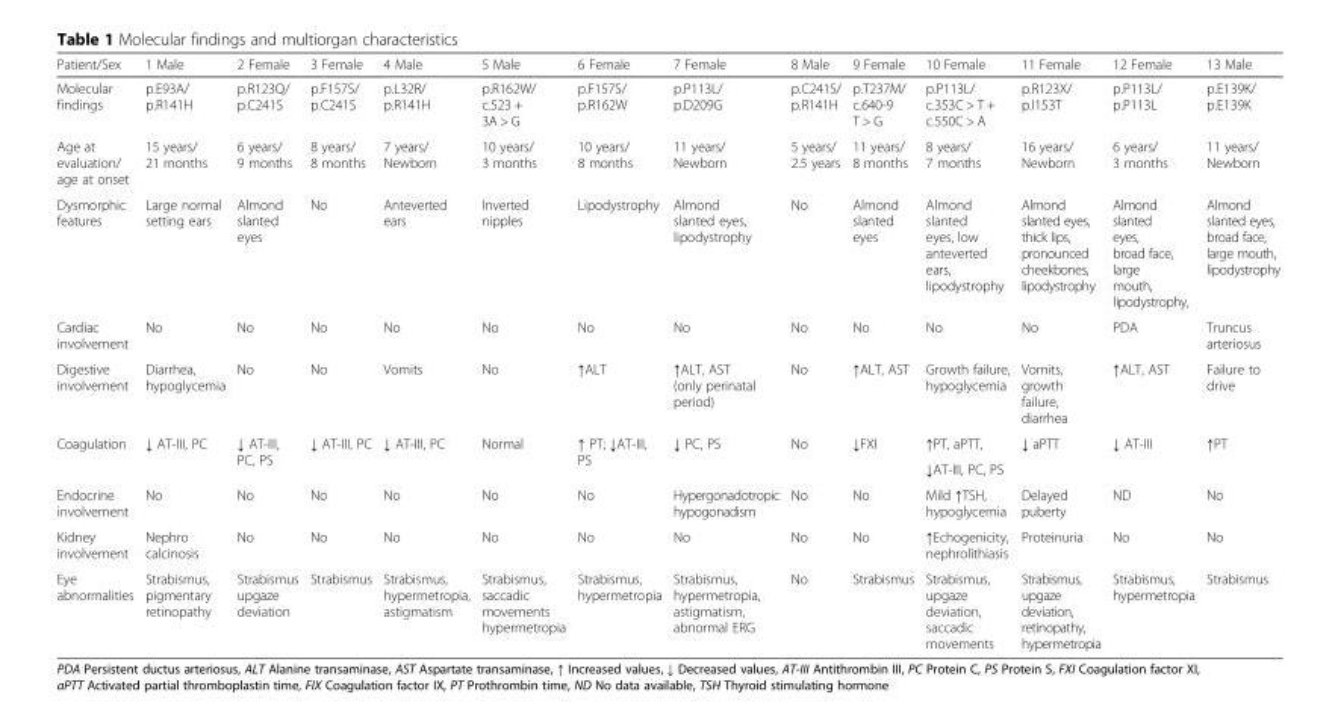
<table><thead><tr><td>Patient/Sex</td><td>1 Male</td><td>2 Female</td><td>3 Female</td><td>4 Male</td><td>5 Male</td><td>6 Female</td><td>7 Female</td><td>8 Male</td><td>9 Female</td><td>10 Female</td><td>11 Female</td><td>12 Female</td><td>13 Male</td></tr></thead><tbody><tr><td>Molecular findings</td><td>p.E93A/ p.R141H</td><td>p.R123Q/ p.C241S</td><td>p.F157S/ p.C241S</td><td>p.L32R/ p.R141H</td><td>p.R162W/ c.523 + 3A &gt; G</td><td>p.F157S/ p.R162W</td><td>p.P113L/ p.D209G</td><td>p.C241S/ p.R141H</td><td>p.T237M/ c.640-9 T &gt; G</td><td>p.P113L/ c.353C &gt; T + c.550C &gt; A</td><td>p.R123X/ p.I153T</td><td>p.P113L/ p.P113L</td><td>p.E139K/ p.E139K</td></tr><tr><td>Age at evaluation/ age at onset</td><td>15 years/ 21 months</td><td>6 years/ 9 months</td><td>8 years/ 8 months</td><td>7 years/ Newborn</td><td>10 years/ 3 months</td><td>10 years/ 8 months</td><td>11 years/ Newborn</td><td>5 years/ 2.5 years</td><td>11 years/ 8 months</td><td>8 years/ 7 months</td><td>16 years/ Newborn</td><td>6 years/ 3 months</td><td>11 years/ Newborn</td></tr><tr><td>Dysmorphic features</td><td>Large normal setting ears</td><td>Almond slanted eyes</td><td>No</td><td>Anteverted ears</td><td>Inverted nipples</td><td>Lipodystrophy</td><td>Almond slanted eyes, lipodystrophy</td><td>No</td><td>Almond slanted eyes</td><td>Almond slanted eyes, low anteverted ears, lipodystrophy</td><td>Almond slanted eyes, thick lips, pronounced cheekbones, lipodystrophy</td><td>Almond slanted eyes, broad face, large mouth, lipodystrophy,</td><td>Almond slanted eyes, broad face, large mouth, lipodystrophy</td></tr><tr><td>Cardiac involvement</td><td>No</td><td>No</td><td>No</td><td>No</td><td>No</td><td>No</td><td>No</td><td>No</td><td>No</td><td>No</td><td>No</td><td>PDA</td><td>Truncus arteriosus</td></tr><tr><td>Digestive involvement</td><td>Diarrhea, hypoglycemia</td><td>No</td><td>No</td><td>Vomits</td><td>No</td><td>↑ALT</td><td>↑ALT, AST (only perinatal period)</td><td>No</td><td>↑ALT, AST</td><td>Growth failure, hypoglycemia</td><td>Vomits, growth failure, diarrhea</td><td>↑ALT, AST</td><td>Failure to drive</td></tr><tr><td rowspan="2">Coagulation</td><td rowspan="2">↓ AT-III, PC</td><td rowspan="2">↓ AT-III, PC, PS</td><td rowspan="2">↓ AT-III, PC</td><td rowspan="2">↓ AT-III, PC</td><td rowspan="2">Normal</td><td rowspan="2">↑ PT; ↓AT-III, PS</td><td rowspan="2">↓ PC, PS</td><td rowspan="2">No</td><td rowspan="2">↓FXI</td><td>↑PT, aPTT,</td><td rowspan="2">↓ aPTT</td><td rowspan="2">↓ AT-III</td><td rowspan="2">↑PT</td></tr><tr><td>↓AT-III, PC, PS</td></tr><tr><td>Endocrine involvement</td><td>No</td><td>No</td><td>No</td><td>No</td><td>No</td><td>No</td><td>Hypergonadotropic hypogonadism</td><td>No</td><td>No</td><td>Mild ↑TSH, hypoglycemia</td><td>Delayed puberty</td><td>ND</td><td>No</td></tr><tr><td>Kidney involvement</td><td>Nephro calcinosis</td><td>No</td><td>No</td><td>No</td><td>No</td><td>No</td><td>No</td><td>No</td><td>No</td><td>↑Echogenicity, nephrolithiasis</td><td>Proteinuria</td><td>No</td><td>No</td></tr><tr><td>Eye abnormalities</td><td>Strabismus, pigmentary retinopathy</td><td>Strabismus upgaze deviation</td><td>Strabismus</td><td>Strabismus, hypermetropia, astigmatism</td><td>Strabismus, saccadic movements hypermetropia</td><td>Strabismus, hypermetropia</td><td>Strabismus, hypermetropia, astigmatism, abnormal ERG</td><td>No</td><td>Strabismus</td><td>Strabismus, upgaze deviation, saccadic movements</td><td>Strabismus, upgaze deviation, retinopathy, hypermetropia</td><td>Strabismus, hypermetropia</td><td>Strabismus</td></tr></tbody></table>